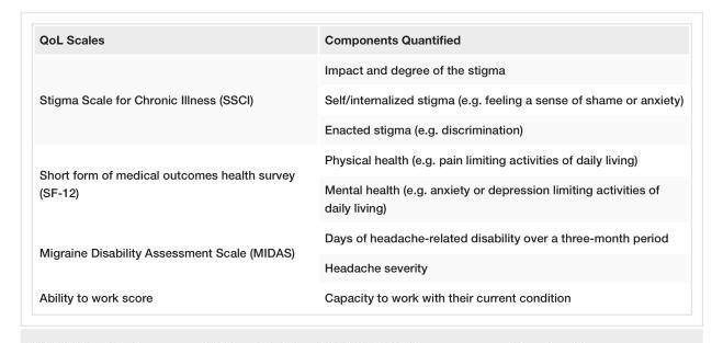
<table><tbody><tr><td>QoL Scales</td><td>Components Quantified</td></tr><tr><td rowspan="3">Stigma Scale for Chronic Illness (SSCI)</td><td>Impact and degree of the stigma</td></tr><tr><td>Self/internalized stigma (e.g. feeling a sense of shame or anxiety)</td></tr><tr><td>Enacted stigma (e.g. discrimination)</td></tr><tr><td rowspan="2">Short form of medical outcomes health survey (SF-12)</td><td>Physical health (e.g. pain limiting activities of daily living)</td></tr><tr><td>Mental health (e.g. anxiety or depression limiting activities of daily living)</td></tr><tr><td rowspan="2">Migraine Disability Assessment Scale (MIDAS)</td><td>Days of headache-related disability over a three-month period</td></tr><tr><td>Headache severity</td></tr><tr><td>Ability to work score</td><td>Capacity to work with their current condition</td></tr></tbody></table>